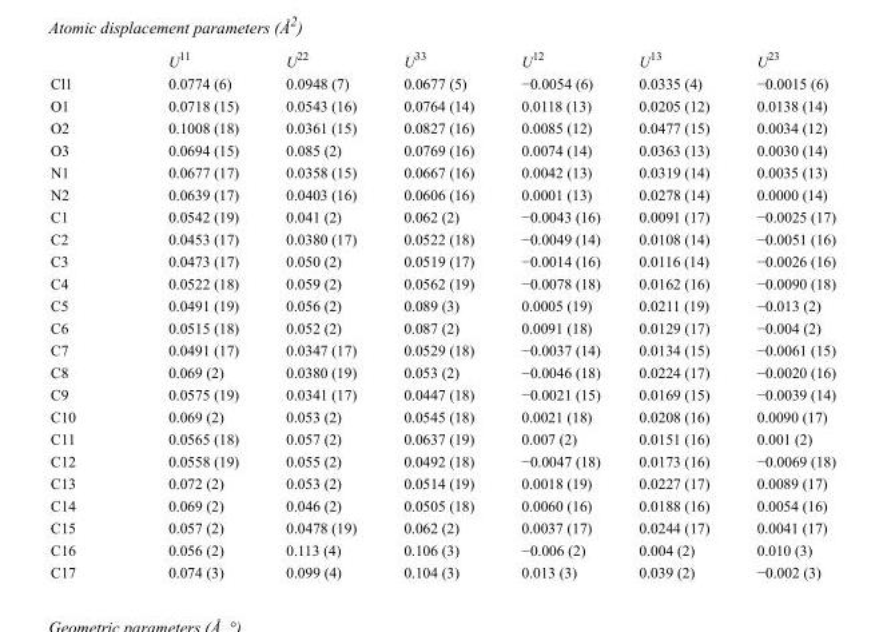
<table><thead><tr><td></td><td>U<sup>11</sup></td><td>U<sup>22</sup></td><td>U<sup>33</sup></td><td>U<sup>12</sup></td><td>U<sup>13</sup></td><td>U<sup>23</sup></td></tr></thead><tbody><tr><td>Cl1</td><td>0.0774 (6)</td><td>0.0948 (7)</td><td>0.0677 (5)</td><td>−0.0054 (6)</td><td>0.0335 (4)</td><td>−0.0015 (6)</td></tr><tr><td>O1</td><td>0.0718 (15)</td><td>0.0543 (16)</td><td>0.0764 (14)</td><td>0.0118 (13)</td><td>0.0205 (12)</td><td>0.0138 (14)</td></tr><tr><td>O2</td><td>0.1008 (18)</td><td>0.0361 (15)</td><td>0.0827 (16)</td><td>0.0085 (12)</td><td>0.0477 (15)</td><td>0.0034 (12)</td></tr><tr><td>O3</td><td>0.0694 (15)</td><td>0.085 (2)</td><td>0.0769 (16)</td><td>0.0074 (14)</td><td>0.0363 (13)</td><td>0.0030 (14)</td></tr><tr><td>N1</td><td>0.0677 (17)</td><td>0.0358 (15)</td><td>0.0667 (16)</td><td>0.0042 (13)</td><td>0.0319 (14)</td><td>0.0035 (13)</td></tr><tr><td>N2</td><td>0.0639 (17)</td><td>0.0403 (16)</td><td>0.0606 (16)</td><td>0.0001 (13)</td><td>0.0278 (14)</td><td>0.0000 (14)</td></tr><tr><td>C1</td><td>0.0542 (19)</td><td>0.041 (2)</td><td>0.062 (2)</td><td>−0.0043 (16)</td><td>0.0091 (17)</td><td>−0.0025 (17)</td></tr><tr><td>C2</td><td>0.0453 (17)</td><td>0.0380 (17)</td><td>0.0522 (18)</td><td>−0.0049 (14)</td><td>0.0108 (14)</td><td>−0.0051 (16)</td></tr><tr><td>C3</td><td>0.0473 (17)</td><td>0.050 (2)</td><td>0.0519 (17)</td><td>−0.0014 (16)</td><td>0.0116 (14)</td><td>−0.0026 (16)</td></tr><tr><td>C4</td><td>0.0522 (18)</td><td>0.059 (2)</td><td>0.0562 (19)</td><td>−0.0078 (18)</td><td>0.0162 (16)</td><td>−0.0090 (18)</td></tr><tr><td>C5</td><td>0.0491 (19)</td><td>0.056 (2)</td><td>0.089 (3)</td><td>0.0005 (19)</td><td>0.0211 (19)</td><td>−0.013 (2)</td></tr><tr><td>C6</td><td>0.0515 (18)</td><td>0.052 (2)</td><td>0.087 (2)</td><td>0.0091 (18)</td><td>0.0129 (17)</td><td>−0.004 (2)</td></tr><tr><td>C7</td><td>0.0491 (17)</td><td>0.0347 (17)</td><td>0.0529 (18)</td><td>−0.0037 (14)</td><td>0.0134 (15)</td><td>−0.0061 (15)</td></tr><tr><td>C8</td><td>0.069 (2)</td><td>0.0380 (19)</td><td>0.053 (2)</td><td>−0.0046 (18)</td><td>0.0224 (17)</td><td>−0.0020 (16)</td></tr><tr><td>C9</td><td>0.0575 (19)</td><td>0.0341 (17)</td><td>0.0447 (18)</td><td>−0.0021 (15)</td><td>0.0169 (15)</td><td>−0.0039 (14)</td></tr><tr><td>C10</td><td>0.069 (2)</td><td>0.053 (2)</td><td>0.0545 (18)</td><td>0.0021 (18)</td><td>0.0208 (16)</td><td>0.0090 (17)</td></tr><tr><td>C11</td><td>0.0565 (18)</td><td>0.057 (2)</td><td>0.0637 (19)</td><td>0.007 (2)</td><td>0.0151 (16)</td><td>0.001 (2)</td></tr><tr><td>C12</td><td>0.0558 (19)</td><td>0.055 (2)</td><td>0.0492 (18)</td><td>−0.0047 (18)</td><td>0.0173 (16)</td><td>−0.0069 (18)</td></tr><tr><td>C13</td><td>0.072 (2)</td><td>0.053 (2)</td><td>0.0514 (19)</td><td>0.0018 (19)</td><td>0.0227 (17)</td><td>0.0089 (17)</td></tr><tr><td>C14</td><td>0.069 (2)</td><td>0.046 (2)</td><td>0.0505 (18)</td><td>0.0060 (16)</td><td>0.0188 (16)</td><td>0.0054 (16)</td></tr><tr><td>C15</td><td>0.057 (2)</td><td>0.0478 (19)</td><td>0.062 (2)</td><td>0.0037 (17)</td><td>0.0244 (17)</td><td>0.0041 (17)</td></tr><tr><td>C16</td><td>0.056 (2)</td><td>0.113 (4)</td><td>0.106 (3)</td><td>−0.006 (2)</td><td>0.004 (2)</td><td>0.010 (3)</td></tr><tr><td>C17</td><td>0.074 (3)</td><td>0.099 (4)</td><td>0.104 (3)</td><td>0.013 (3)</td><td>0.039 (2)</td><td>−0.002 (3)</td></tr></tbody></table>